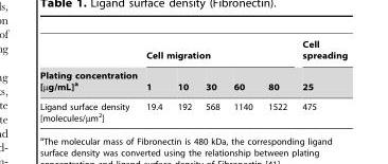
<table><thead><tr><td rowspan="2">Plating concentration [µg/mL]<sup>a</sup></td><td colspan="5">Cell migration</td><td rowspan="2">Cell spreading 25</td></tr><tr><td>1</td><td>10</td><td>30</td><td>60</td><td>80</td></tr></thead><tbody><tr><td>Ligand surface density [molecules/µm<sup>2</sup>]</td><td>19.4</td><td>192</td><td>568</td><td>1140</td><td>1522</td><td>475</td></tr></tbody></table>